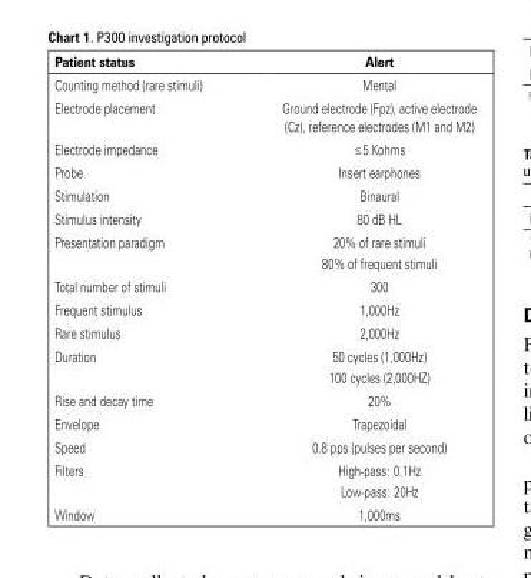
<table><thead><tr><td>Patient status</td><td>Alert</td></tr></thead><tbody><tr><td>Counting method (rare stimuli)</td><td>Mental</td></tr><tr><td>Electrode placement</td><td>Ground electrode (Fpz), active electrode (Cz), reference electrodes (M1 and M2)</td></tr><tr><td>Electrode impedance</td><td>≤5 Kohms</td></tr><tr><td>Probe</td><td>Insert earphones</td></tr><tr><td>Stimulation</td><td>Binaural</td></tr><tr><td>Stimulus intensity</td><td>80 dB HL</td></tr><tr><td rowspan="2">Presentation paradigm</td><td>20% of rare stimuli</td></tr><tr><td>80% of frequent stimuli</td></tr><tr><td>Total number of stimuli</td><td>300</td></tr><tr><td>Frequent stimulus</td><td>1,000Hz</td></tr><tr><td>Rare stimulus</td><td>2,000Hz</td></tr><tr><td rowspan="2">Duration</td><td>50 cycles (1,000Hz)</td></tr><tr><td>100 cycles (2,000HZ)</td></tr><tr><td>Rise and decay time</td><td>20%</td></tr><tr><td>Envelope</td><td>Trapezoidal</td></tr><tr><td>Speed</td><td>0.8 pps (pulses per second)</td></tr><tr><td rowspan="2">Filters</td><td>High-pass: 0.1Hz</td></tr><tr><td>Low-pass: 20Hz</td></tr><tr><td>Window</td><td>1,000ms</td></tr></tbody></table>